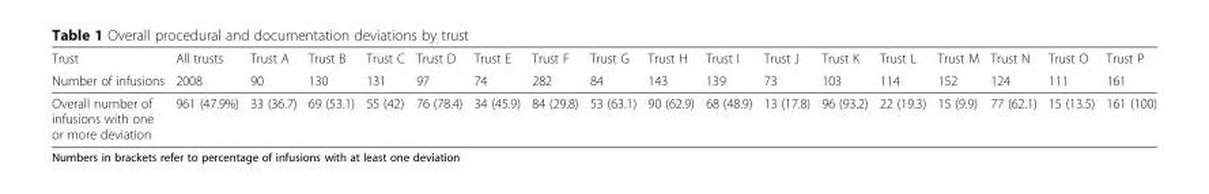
<table><thead><tr><td rowspan="2">Trust Number of infusions</td><td rowspan="2">All trusts 2008</td><td rowspan="2">Trust A 90</td><td rowspan="2">Trust B 130</td><td rowspan="2">Trust C 131</td><td rowspan="2">Trust D 97</td><td rowspan="2">Trust E 74</td><td rowspan="2">Trust F 282</td><td rowspan="2">Trust G 84</td><td rowspan="2">Trust H 143</td><td rowspan="2">Trust I 139</td><td rowspan="2">Trust J 73</td><td rowspan="2">Trust K 103</td><td rowspan="2">Trust L 114</td><td rowspan="2">Trust M 152</td><td rowspan="2">Trust N 124</td><td rowspan="2">Trust O 111</td><td rowspan="2">Trust P 161</td></tr><tr></tr></thead><tbody><tr><td>Overall number of infusions with one or more deviation</td><td>961 (47.9%)</td><td>33 (36.7)</td><td>69 (53.1)</td><td>55 (42)</td><td>76 (78.4)</td><td>34 (45.9)</td><td>84 (29.8)</td><td>53 (63.1)</td><td>90 (62.9)</td><td>68 (48.9)</td><td>13 (17.8)</td><td>96 (93.2)</td><td>22 (19.3)</td><td>15 (9.9)</td><td>77 (62.1)</td><td>15 (13.5)</td><td>161 (100)</td></tr></tbody></table>